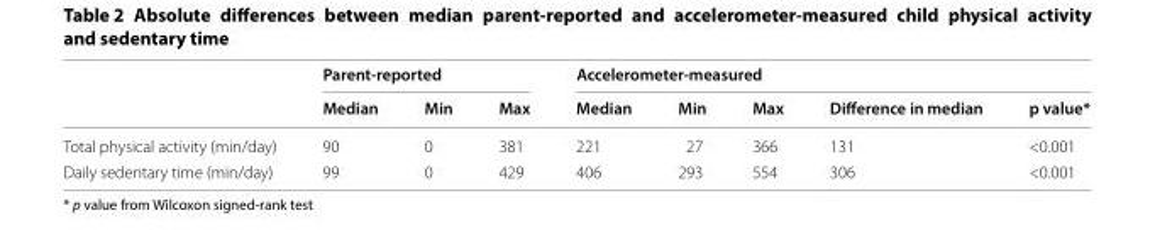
<table><thead><tr><td rowspan="2"></td><td colspan="3">Parent‑reported</td><td colspan="5">Accelerometer‑measured</td></tr><tr><td>Median</td><td>Min</td><td>Max</td><td>Median</td><td>Min</td><td>Max</td><td>Difference in median</td><td>p value*</td></tr></thead><tbody><tr><td>Total physical activity (min/day)</td><td>90</td><td>0</td><td>381</td><td>221</td><td>27</td><td>366</td><td>131</td><td>&lt;0.001</td></tr><tr><td>Daily sedentary time (min/day)</td><td>99</td><td>0</td><td>429</td><td>406</td><td>293</td><td>554</td><td>306</td><td>&lt;0.001</td></tr></tbody></table>